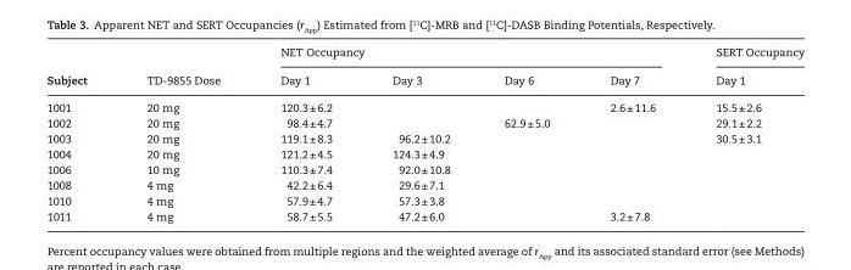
<table><thead><tr><td rowspan="2">Subject</td><td rowspan="2">TD-9855 Dose</td><td colspan="4">NET Occupancy</td><td rowspan="2">SERT Occupancy Day 1</td></tr><tr><td>Day 1</td><td>Day 3</td><td>Day 6</td><td>Day 7</td></tr></thead><tbody><tr><td>1001</td><td>20 mg</td><td>120.3 ± 6.2</td><td></td><td></td><td>2.6 ± 11.6</td><td>15.5 ± 2.6</td></tr><tr><td>1002</td><td>20 mg</td><td>98.4 ± 4.7</td><td></td><td>62.9 ± 5.0</td><td></td><td>29.1 ± 2.2</td></tr><tr><td>1003</td><td>20 mg</td><td>119.1 ± 8.3</td><td>96.2 ± 10.2</td><td></td><td></td><td>30.5 ± 3.1</td></tr><tr><td>1004</td><td>20 mg</td><td>121.2 ± 4.5</td><td>124.3 ± 4.9</td><td></td><td></td><td></td></tr><tr><td>1006</td><td>10 mg</td><td>110.3 ± 7.4</td><td>92.0 ± 10.8</td><td></td><td></td><td></td></tr><tr><td>1008</td><td>4 mg</td><td>42.2 ± 6.4</td><td>29.6 ± 7.1</td><td></td><td></td><td></td></tr><tr><td>1010</td><td>4 mg</td><td>57.9 ± 4.7</td><td>57.3 ± 3.8</td><td></td><td></td><td></td></tr><tr><td>1011</td><td>4 mg</td><td>58.7 ± 5.5</td><td>47.2 ± 6.0</td><td></td><td>3.2 ± 7.8</td><td></td></tr></tbody></table>